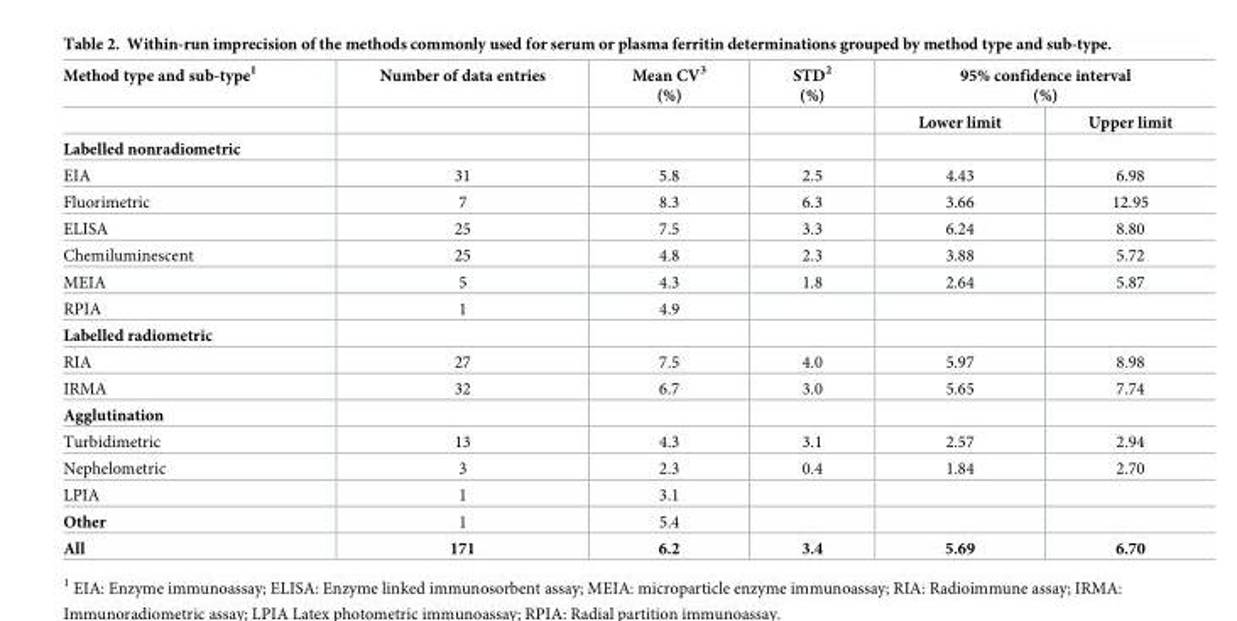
<table><thead><tr><td rowspan="2">Method type and sub-type<sup>1</sup></td><td rowspan="2">Number of data entries</td><td rowspan="2">Mean CV<sup>3</sup> (%)</td><td rowspan="2">STD<sup>2</sup> (%)</td><td colspan="2">95% confidence interval (%)</td></tr><tr><td>Lower limit</td><td>Upper limit</td></tr></thead><tbody><tr><td colspan="6">Labelled nonradiometric</td></tr><tr><td>EIA</td><td>31</td><td>5.8</td><td>2.5</td><td>4.43</td><td>6.98</td></tr><tr><td>Fluorimetric</td><td>7</td><td>8.3</td><td>6.3</td><td>3.66</td><td>12.95</td></tr><tr><td>ELISA</td><td>25</td><td>7.5</td><td>3.3</td><td>6.24</td><td>8.80</td></tr><tr><td>Chemiluminescent</td><td>25</td><td>4.8</td><td>2.3</td><td>3.88</td><td>5.72</td></tr><tr><td>MEIA</td><td>5</td><td>4.3</td><td>1.8</td><td>2.64</td><td>5.87</td></tr><tr><td>RPIA</td><td>1</td><td>4.9</td><td></td><td></td><td></td></tr><tr><td colspan="6">Labelled radiometric</td></tr><tr><td>RIA</td><td>27</td><td>7.5</td><td>4.0</td><td>5.97</td><td>8.98</td></tr><tr><td>IRMA</td><td>32</td><td>6.7</td><td>3.0</td><td>5.65</td><td>7.74</td></tr><tr><td colspan="6">Agglutination</td></tr><tr><td>Turbidimetric</td><td>13</td><td>4.3</td><td>3.1</td><td>2.57</td><td>2.94</td></tr><tr><td>Nephelometric</td><td>3</td><td>2.3</td><td>0.4</td><td>1.84</td><td>2.70</td></tr><tr><td>LPIA</td><td>1</td><td>3.1</td><td></td><td></td><td></td></tr><tr><td>Other</td><td>1</td><td>5.4</td><td></td><td></td><td></td></tr><tr><td>All</td><td>171</td><td>6.2</td><td>3.4</td><td>5.69</td><td>6.70</td></tr></tbody></table>